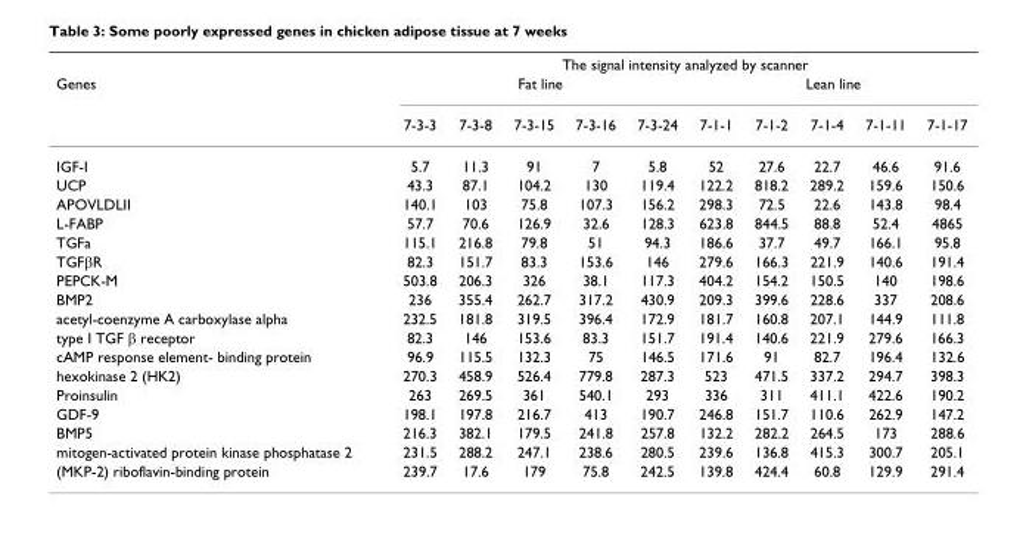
<table><thead><tr><td rowspan="3">Genes</td><td colspan="10">The signal intensity analyzed by scanner</td></tr><tr><td colspan="5">Fat line</td><td colspan="5">Lean line</td></tr><tr><td>7-3-3</td><td>7-3-8</td><td>7-3-15</td><td>7-3-16</td><td>7-3-24</td><td>7-1-1</td><td>7-1-2</td><td>7-1-4</td><td>7-1-11</td><td>7-1-17</td></tr></thead><tbody><tr><td>IGF-I</td><td>5.7</td><td>11.3</td><td>91</td><td>7</td><td>5.8</td><td>52</td><td>27.6</td><td>22.7</td><td>46.6</td><td>91.6</td></tr><tr><td>UCP</td><td>43.3</td><td>87.1</td><td>104.2</td><td>130</td><td>119.4</td><td>122.2</td><td>818.2</td><td>289.2</td><td>159.6</td><td>150.6</td></tr><tr><td>APOVLDLII</td><td>140.1</td><td>103</td><td>75.8</td><td>107.3</td><td>156.2</td><td>298.3</td><td>72.5</td><td>22.6</td><td>143.8</td><td>98.4</td></tr><tr><td>L-FABP</td><td>57.7</td><td>70.6</td><td>126.9</td><td>32.6</td><td>128.3</td><td>623.8</td><td>844.5</td><td>88.8</td><td>52.4</td><td>4865</td></tr><tr><td>TGFa</td><td>115.1</td><td>216.8</td><td>79.8</td><td>51</td><td>94.3</td><td>186.6</td><td>37.7</td><td>49.7</td><td>166.1</td><td>95.8</td></tr><tr><td>TGFβR</td><td>82.3</td><td>151.7</td><td>83.3</td><td>153.6</td><td>146</td><td>279.6</td><td>166.3</td><td>221.9</td><td>140.6</td><td>191.4</td></tr><tr><td>PEPCK-M</td><td>503.8</td><td>206.3</td><td>326</td><td>38.1</td><td>117.3</td><td>404.2</td><td>154.2</td><td>150.5</td><td>140</td><td>198.6</td></tr><tr><td>BMP2</td><td>236</td><td>355.4</td><td>262.7</td><td>317.2</td><td>430.9</td><td>209.3</td><td>399.6</td><td>228.6</td><td>337</td><td>208.6</td></tr><tr><td>acetyl-coenzyme A carboxylase alpha</td><td>232.5</td><td>181.8</td><td>319.5</td><td>396.4</td><td>172.9</td><td>181.7</td><td>160.8</td><td>207.1</td><td>144.9</td><td>111.8</td></tr><tr><td>type I TGF β receptor</td><td>82.3</td><td>146</td><td>153.6</td><td>83.3</td><td>151.7</td><td>191.4</td><td>140.6</td><td>221.9</td><td>279.6</td><td>166.3</td></tr><tr><td>cAMP response element- binding protein</td><td>96.9</td><td>115.5</td><td>132.3</td><td>75</td><td>146.5</td><td>171.6</td><td>91</td><td>82.7</td><td>196.4</td><td>132.6</td></tr><tr><td>hexokinase 2 (HK2)</td><td>270.3</td><td>458.9</td><td>526.4</td><td>779.8</td><td>287.3</td><td>523</td><td>471.5</td><td>337.2</td><td>294.7</td><td>398.3</td></tr><tr><td>Proinsulin</td><td>263</td><td>269.5</td><td>361</td><td>540.1</td><td>293</td><td>336</td><td>311</td><td>411.1</td><td>422.6</td><td>190.2</td></tr><tr><td>GDF-9</td><td>198.1</td><td>197.8</td><td>216.7</td><td>413</td><td>190.7</td><td>246.8</td><td>151.7</td><td>110.6</td><td>262.9</td><td>147.2</td></tr><tr><td>BMP5</td><td>216.3</td><td>382.1</td><td>179.5</td><td>241.8</td><td>257.8</td><td>132.2</td><td>282.2</td><td>264.5</td><td>173</td><td>288.6</td></tr><tr><td>mitogen-activated protein kinase phosphatase 2</td><td>231.5</td><td>288.2</td><td>247.1</td><td>238.6</td><td>280.5</td><td>239.6</td><td>136.8</td><td>415.3</td><td>300.7</td><td>205.1</td></tr><tr><td>(MKP-2) riboflavin-binding protein</td><td>239.7</td><td>17.6</td><td>179</td><td>75.8</td><td>242.5</td><td>139.8</td><td>424.4</td><td>60.8</td><td>129.9</td><td>291.4</td></tr></tbody></table>